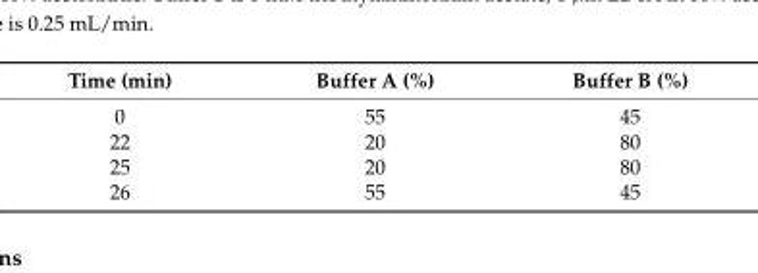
<table><thead><tr><td>Time (min)</td><td>Buffer A (%)</td><td>Buffer B (%)</td></tr></thead><tbody><tr><td>0</td><td>55</td><td>45</td></tr><tr><td>22</td><td>20</td><td>80</td></tr><tr><td>25</td><td>20</td><td>80</td></tr><tr><td>26</td><td>55</td><td>45</td></tr></tbody></table>